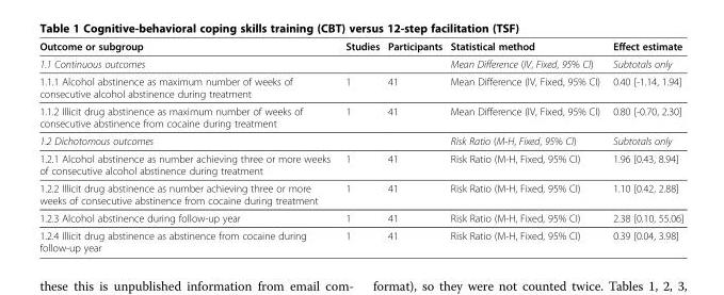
<table><thead><tr><td>Outcome or subgroup</td><td>Studies</td><td>Participants</td><td>Statistical method</td><td>Effect estimate</td></tr></thead><tbody><tr><td>1.1 Continuous outcomes</td><td></td><td></td><td>Mean Difference (IV, Fixed, 95% CI)</td><td>Subtotals only</td></tr><tr><td>1.1.1 Alcohol abstinence as maximum number of weeks of consecutive alcohol abstinence during treatment</td><td>1</td><td>41</td><td>Mean Difference (IV, Fixed, 95% CI)</td><td>0.40 [-1.14, 1.94]</td></tr><tr><td>1.1.2 Illicit drug abstinence as maximum number of weeks of consecutive abstinence from cocaine during treatment</td><td>1</td><td>41</td><td>Mean Difference (IV, Fixed, 95% CI)</td><td>0.80 [-0.70, 2.30]</td></tr><tr><td>1.2 Dichotomous outcomes</td><td></td><td></td><td>Risk Ratio (M-H, Fixed, 95% CI)</td><td>Subtotals only</td></tr><tr><td>1.2.1 Alcohol abstinence as number achieving three or more weeks of consecutive alcohol abstinence during treatment</td><td>1</td><td>41</td><td>Risk Ratio (M-H, Fixed, 95% CI)</td><td>1.96 [0.43, 8.94]</td></tr><tr><td>1.2.2 Illicit drug abstinence as number achieving three or more weeks of consecutive abstinence from cocaine during treatment</td><td>1</td><td>41</td><td>Risk Ratio (M-H, Fixed, 95% CI)</td><td>1.10 [0.42, 2.88]</td></tr><tr><td>1.2.3 Alcohol abstinence during follow-up year</td><td>1</td><td>41</td><td>Risk Ratio (M-H, Fixed, 95% CI)</td><td>2.38 [0.10, 55.06]</td></tr><tr><td>1.2.4 Illicit drug abstinence as abstinence from cocaine during follow-up year</td><td>1</td><td>41</td><td>Risk Ratio (M-H, Fixed, 95% CI)</td><td>0.39 [0.04, 3.98]</td></tr></tbody></table>